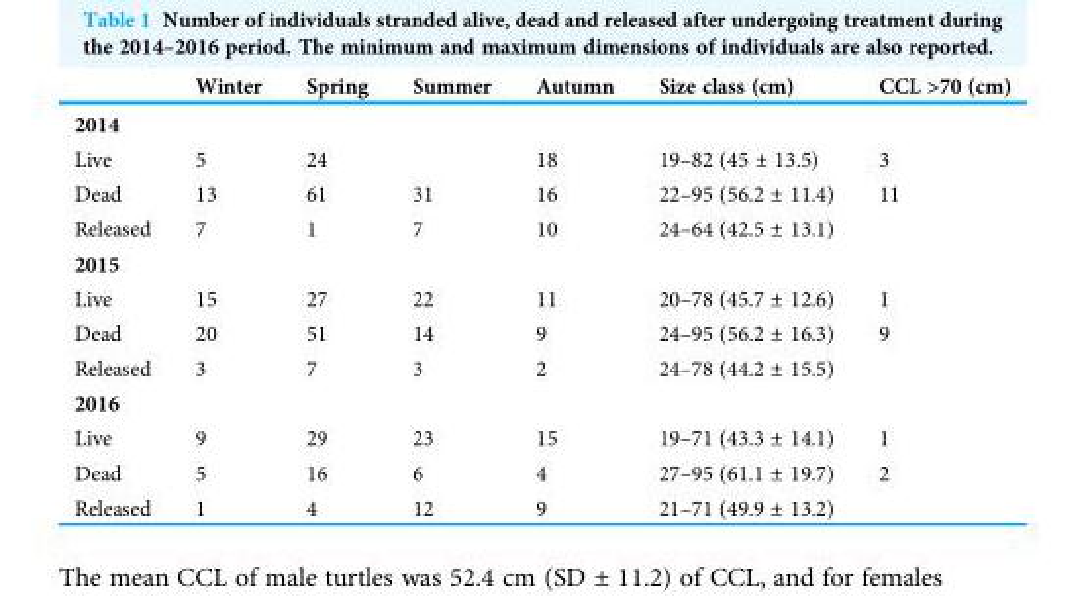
<table><thead><tr><td></td><td>Winter</td><td>Spring</td><td>Summer</td><td>Autumn</td><td>Size class (cm)</td><td>CCL &gt;70 (cm)</td></tr></thead><tbody><tr><td colspan="7">2014</td></tr><tr><td>Live</td><td>5</td><td>24</td><td></td><td>18</td><td>19–82 (45 ± 13.5)</td><td>3</td></tr><tr><td>Dead</td><td>13</td><td>61</td><td>31</td><td>16</td><td>22–95 (56.2 ± 11.4)</td><td>11</td></tr><tr><td>Released</td><td>7</td><td>1</td><td>7</td><td>10</td><td>24–64 (42.5 ± 13.1)</td><td></td></tr><tr><td colspan="7">2015</td></tr><tr><td>Live</td><td>15</td><td>27</td><td>22</td><td>11</td><td>20–78 (45.7 ± 12.6)</td><td>1</td></tr><tr><td>Dead</td><td>20</td><td>51</td><td>14</td><td>9</td><td>24–95 (56.2 ± 16.3)</td><td>9</td></tr><tr><td>Released</td><td>3</td><td>7</td><td>3</td><td>2</td><td>24–78 (44.2 ± 15.5)</td><td></td></tr><tr><td colspan="7">2016</td></tr><tr><td>Live</td><td>9</td><td>29</td><td>23</td><td>15</td><td>19–71 (43.3 ± 14.1)</td><td>1</td></tr><tr><td>Dead</td><td>5</td><td>16</td><td>6</td><td>4</td><td>27–95 (61.1 ± 19.7)</td><td>2</td></tr><tr><td>Released</td><td>1</td><td>4</td><td>12</td><td>9</td><td>21–71 (49.9 ± 13.2)</td><td></td></tr></tbody></table>